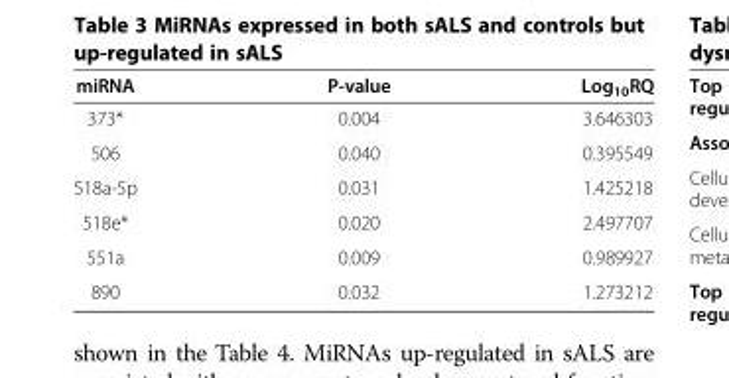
<table><thead><tr><td>miRNA</td><td>P-value</td><td>Log<sub>10</sub>RQ</td></tr></thead><tbody><tr><td>373*</td><td>0.004</td><td>3.646303</td></tr><tr><td>506</td><td>0.040</td><td>0.395549</td></tr><tr><td>518a-5p</td><td>0.031</td><td>1.425218</td></tr><tr><td>518e*</td><td>0.020</td><td>2.497707</td></tr><tr><td>551a</td><td>0.009</td><td>0.989927</td></tr><tr><td>890</td><td>0.032</td><td>1.273212</td></tr></tbody></table>